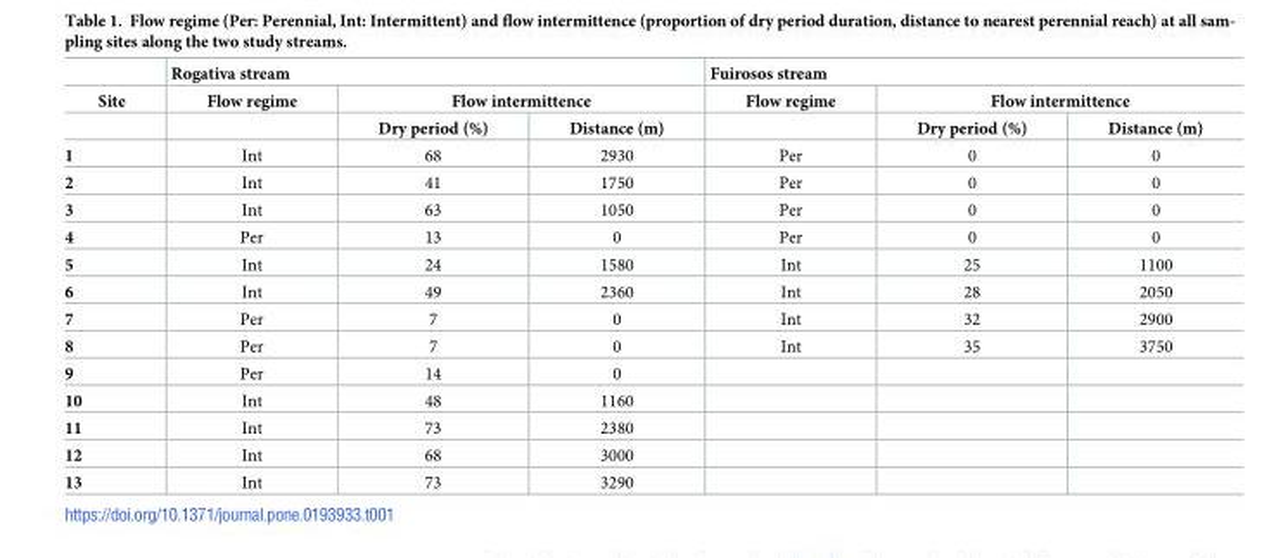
<table><thead><tr><td rowspan="3">Site</td><td colspan="3">Rogativa stream</td><td colspan="3">Fuirosos stream</td></tr><tr><td rowspan="2">Flow regime</td><td colspan="2">Flow intermittence</td><td rowspan="2">Flow regime</td><td colspan="2">Flow intermittence</td></tr><tr><td>Dry period (%)</td><td>Distance (m)</td><td>Dry period (%)</td><td>Distance (m)</td></tr></thead><tbody><tr><td>1</td><td>Int</td><td>68</td><td>2930</td><td>Per</td><td>0</td><td>0</td></tr><tr><td>2</td><td>Int</td><td>41</td><td>1750</td><td>Per</td><td>0</td><td>0</td></tr><tr><td>3</td><td>Int</td><td>63</td><td>1050</td><td>Per</td><td>0</td><td>0</td></tr><tr><td>4</td><td>Per</td><td>13</td><td>0</td><td>Per</td><td>0</td><td>0</td></tr><tr><td>5</td><td>Int</td><td>24</td><td>1580</td><td>Int</td><td>25</td><td>1100</td></tr><tr><td>6</td><td>Int</td><td>49</td><td>2360</td><td>Int</td><td>28</td><td>2050</td></tr><tr><td>7</td><td>Per</td><td>7</td><td>0</td><td>Int</td><td>32</td><td>2900</td></tr><tr><td>8</td><td>Per</td><td>7</td><td>0</td><td>Int</td><td>35</td><td>3750</td></tr><tr><td>9</td><td>Per</td><td>14</td><td>0</td><td></td><td></td><td></td></tr><tr><td>10</td><td>Int</td><td>48</td><td>1160</td><td></td><td></td><td></td></tr><tr><td>11</td><td>Int</td><td>73</td><td>2380</td><td></td><td></td><td></td></tr><tr><td>12</td><td>Int</td><td>68</td><td>3000</td><td></td><td></td><td></td></tr><tr><td>13</td><td>Int</td><td>73</td><td>3290</td><td></td><td></td><td></td></tr></tbody></table>